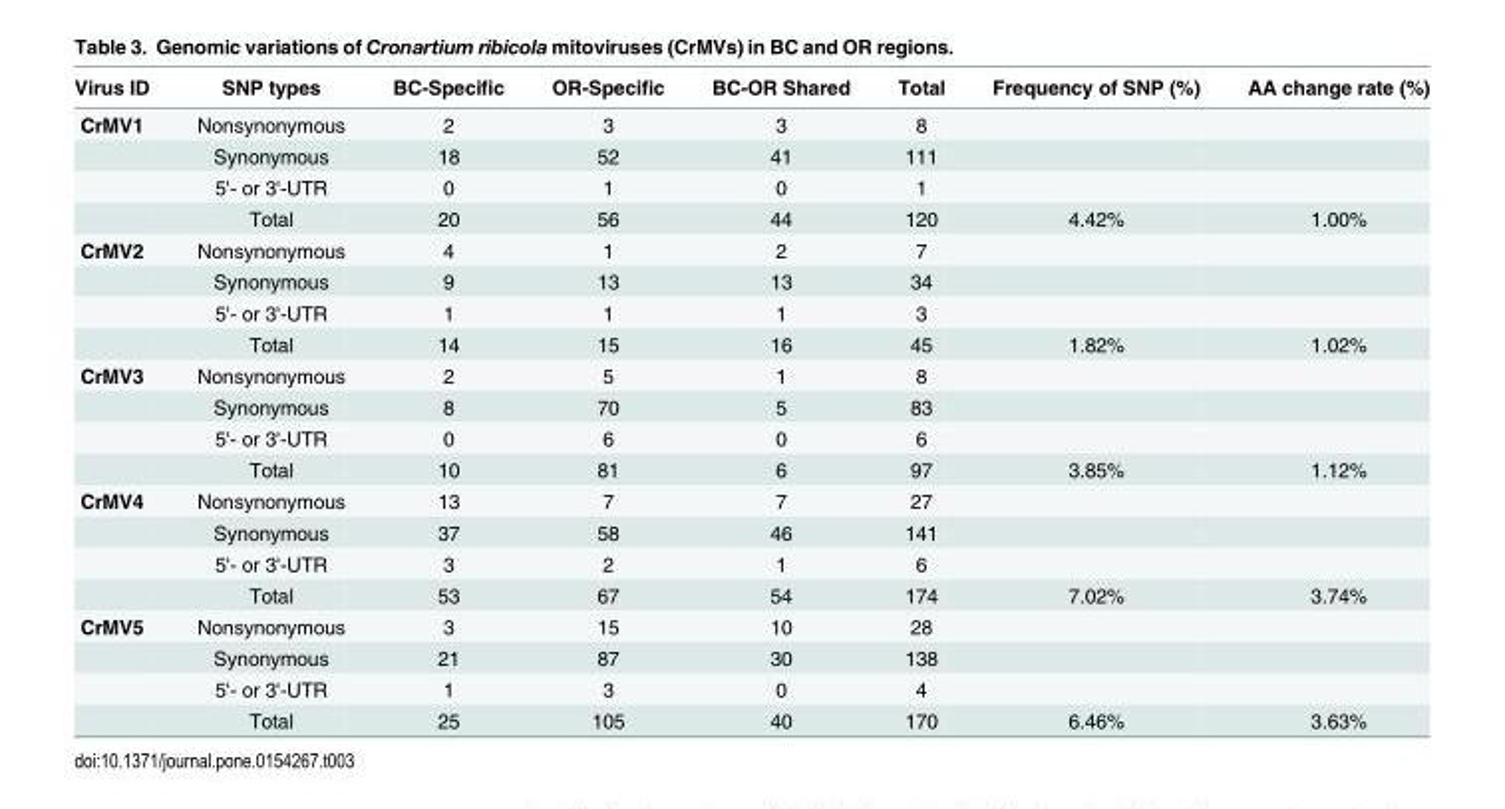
<table><thead><tr><td>Virus ID</td><td>SNP types</td><td>BC-Specific</td><td>OR-Specific</td><td>BC-OR Shared</td><td>Total</td><td>Frequency of SNP (%)</td><td>AA change rate (%)</td></tr></thead><tbody><tr><td rowspan="4">CrMV1</td><td>Nonsynonymous</td><td>2</td><td>3</td><td>3</td><td>8</td><td></td><td></td></tr><tr><td>Synonymous</td><td>18</td><td>52</td><td>41</td><td>111</td><td></td><td></td></tr><tr><td>5&#x27;- or 3&#x27;-UTR</td><td>0</td><td>1</td><td>0</td><td>1</td><td></td><td></td></tr><tr><td>Total</td><td>20</td><td>56</td><td>44</td><td>120</td><td>4.42%</td><td>1.00%</td></tr><tr><td rowspan="4">CrMV2</td><td>Nonsynonymous</td><td>4</td><td>1</td><td>2</td><td>7</td><td></td><td></td></tr><tr><td>Synonymous</td><td>9</td><td>13</td><td>13</td><td>34</td><td></td><td></td></tr><tr><td>5&#x27;- or 3&#x27;-UTR</td><td>1</td><td>1</td><td>1</td><td>3</td><td></td><td></td></tr><tr><td>Total</td><td>14</td><td>15</td><td>16</td><td>45</td><td>1.82%</td><td>1.02%</td></tr><tr><td rowspan="4">CrMV3</td><td>Nonsynonymous</td><td>2</td><td>5</td><td>1</td><td>8</td><td></td><td></td></tr><tr><td>Synonymous</td><td>8</td><td>70</td><td>5</td><td>83</td><td></td><td></td></tr><tr><td>5&#x27;- or 3&#x27;-UTR</td><td>0</td><td>6</td><td>0</td><td>6</td><td></td><td></td></tr><tr><td>Total</td><td>10</td><td>81</td><td>6</td><td>97</td><td>3.85%</td><td>1.12%</td></tr><tr><td rowspan="4">CrMV4</td><td>Nonsynonymous</td><td>13</td><td>7</td><td>7</td><td>27</td><td></td><td></td></tr><tr><td>Synonymous</td><td>37</td><td>58</td><td>46</td><td>141</td><td></td><td></td></tr><tr><td>5&#x27;- or 3&#x27;-UTR</td><td>3</td><td>2</td><td>1</td><td>6</td><td></td><td></td></tr><tr><td>Total</td><td>53</td><td>67</td><td>54</td><td>174</td><td>7.02%</td><td>3.74%</td></tr><tr><td rowspan="4">CrMV5</td><td>Nonsynonymous</td><td>3</td><td>15</td><td>10</td><td>28</td><td></td><td></td></tr><tr><td>Synonymous</td><td>21</td><td>87</td><td>30</td><td>138</td><td></td><td></td></tr><tr><td>5&#x27;- or 3&#x27;-UTR</td><td>1</td><td>3</td><td>0</td><td>4</td><td></td><td></td></tr><tr><td>Total</td><td>25</td><td>105</td><td>40</td><td>170</td><td>6.46%</td><td>3.63%</td></tr></tbody></table>